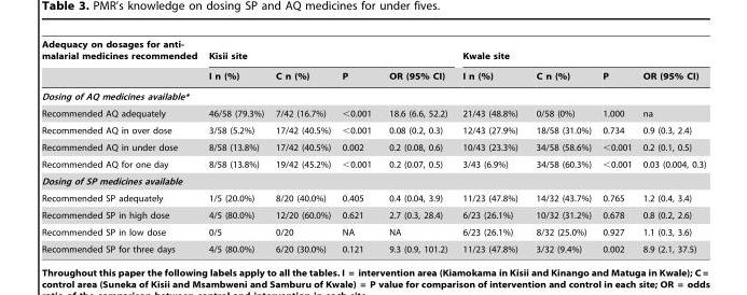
<table><thead><tr><td rowspan="2">Adequacy on dosages for anti- malarial medicines recommended</td><td colspan="4">Kisii site</td><td colspan="4">Kwale site</td></tr><tr><td>I n (%)</td><td>C n (%)</td><td>P</td><td>OR (95% CI)</td><td>I n (%)</td><td>C n (%)</td><td>P</td><td>OR (95% CI)</td></tr></thead><tbody><tr><td colspan="9">Dosing of AQ medicines available*</td></tr><tr><td>Recommended AQ adequately</td><td>46/58 (79.3%)</td><td>7/42 (16.7%)</td><td>&lt;0.001</td><td>18.6 (6.6, 52.2)</td><td>21/43 (48.8%)</td><td>0/58 (0%)</td><td>1.000</td><td>na</td></tr><tr><td>Recommended AQ in over dose</td><td>3/58 (5.2%)</td><td>17/42 (40.5%)</td><td>&lt;0.001</td><td>0.08 (0.2, 0.3)</td><td>12/43 (27.9%)</td><td>18/58 (31.0%)</td><td>0.734</td><td>0.9 (0.3, 2.4)</td></tr><tr><td>Recommended AQ in under dose</td><td>8/58 (13.8%)</td><td>17/42 (40.5%)</td><td>0.002</td><td>0.2 (0.08, 0.6)</td><td>10/43 (23.3%)</td><td>34/58 (58.6%)</td><td>&lt;0.001</td><td>0.2 (0.1, 0.5)</td></tr><tr><td>Recommended AQ for one day</td><td>8/58 (13.8%)</td><td>19/42 (45.2%)</td><td>&lt;0.001</td><td>0.2 (0.07, 0.5)</td><td>3/43 (6.9%)</td><td>34/58 (60.3%)</td><td>&lt;0.001</td><td>0.03 (0.004, 0.3)</td></tr><tr><td colspan="9">Dosing of SP medicines available</td></tr><tr><td>Recommended SP adequately</td><td>1/5 (20.0%)</td><td>8/20 (40.0%)</td><td>0.405</td><td>0.4 (0.04, 3.9)</td><td>11/23 (47.8%)</td><td>14/32 (43.7%)</td><td>0.765</td><td>1.2 (0.4, 3.4)</td></tr><tr><td>Recommended SP in high dose</td><td>4/5 (80.0%)</td><td>12/20 (60.0%)</td><td>0.621</td><td>2.7 (0.3, 28.4)</td><td>6/23 (26.1%)</td><td>10/32 (31.2%)</td><td>0.678</td><td>0.8 (0.2, 2.6)</td></tr><tr><td>Recommended SP in low dose</td><td>0/5</td><td>0/20</td><td>NA</td><td>NA</td><td>6/23 (26.1%)</td><td>8/32 (25.0%)</td><td>0.927</td><td>1.1 (0.3, 3.6)</td></tr><tr><td>Recommended SP for three days</td><td>4/5 (80.0%)</td><td>6/20 (30.0%)</td><td>0.121</td><td>9.3 (0.9, 101.2)</td><td>11/23 (47.8%)</td><td>3/32 (9.4%)</td><td>0.002</td><td>8.9 (2.1, 37.5)</td></tr></tbody></table>